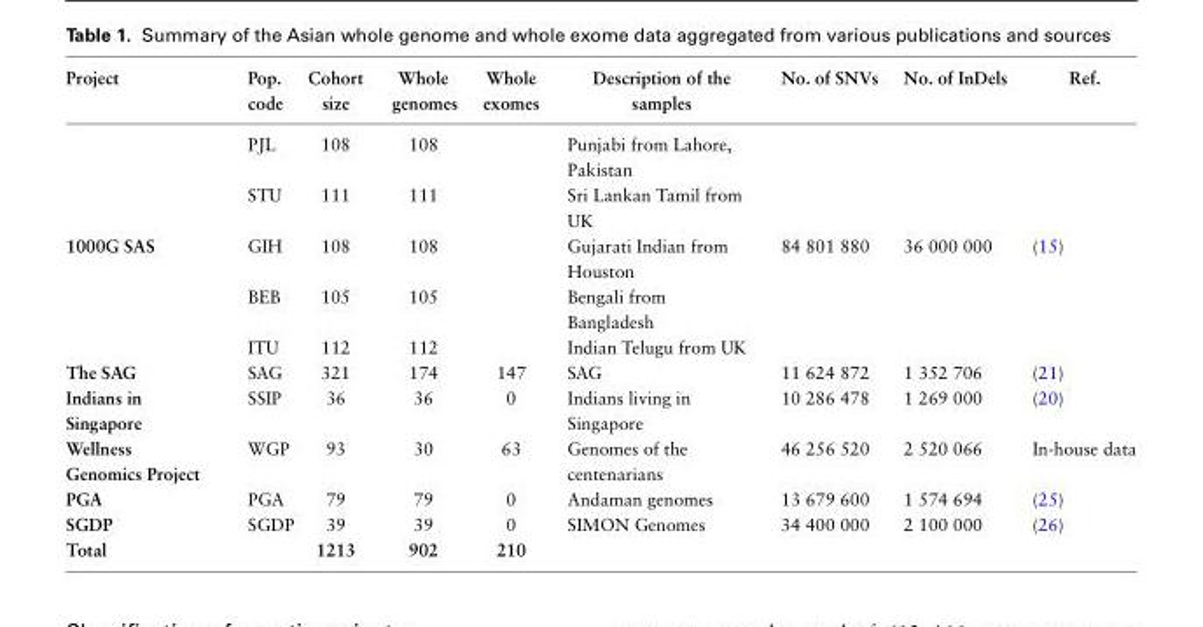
<table><thead><tr><td>Project</td><td>Pop. code</td><td>Cohort size</td><td>Whole genomes</td><td>Whole exomes</td><td>Description of the samples</td><td>No. of SNVs</td><td>No. of InDels</td><td>Ref.</td></tr></thead><tbody><tr><td></td><td>PJL</td><td>108</td><td>108</td><td></td><td>Punjabi from Lahore, Pakistan</td><td></td><td></td><td></td></tr><tr><td></td><td>STU</td><td>111</td><td>111</td><td></td><td>Sri Lankan Tamil from UK</td><td></td><td></td><td></td></tr><tr><td rowspan="3">1000G SAS</td><td>GIH</td><td>108</td><td>108</td><td></td><td>Gujarati Indian from Houston</td><td>84 801 880</td><td>36 000 000</td><td>(15)</td></tr><tr><td>BEB</td><td>105</td><td>105</td><td></td><td>Bengali from Bangladesh</td><td></td><td></td><td></td></tr><tr><td>ITU</td><td>112</td><td>112</td><td></td><td>Indian Telugu from UK</td><td></td><td></td><td></td></tr><tr><td>The SAG</td><td>SAG</td><td>321</td><td>174</td><td>147</td><td>SAG</td><td>11 624 872</td><td>1 352 706</td><td>(21)</td></tr><tr><td>Indians in Singapore</td><td>SSIP</td><td>36</td><td>36</td><td>0</td><td>Indians living in Singapore</td><td>10 286 478</td><td>1 269 000</td><td>(20)</td></tr><tr><td>Wellness Genomics Project</td><td>WGP</td><td>93</td><td>30</td><td>63</td><td>Genomes of the centenarians</td><td>46 256 520</td><td>2 520 066</td><td>In-house data</td></tr><tr><td>PGA</td><td>PGA</td><td>79</td><td>79</td><td>0</td><td>Andaman genomes</td><td>13 679 600</td><td>1 574 694</td><td>(25)</td></tr><tr><td>SGDP</td><td>SGDP</td><td>39</td><td>39</td><td>0</td><td>SIMON Genomes</td><td>34 400 000</td><td>2 100 000</td><td>(26)</td></tr><tr><td>Total</td><td></td><td>1213</td><td>902</td><td>210</td><td></td><td></td><td></td><td></td></tr></tbody></table>